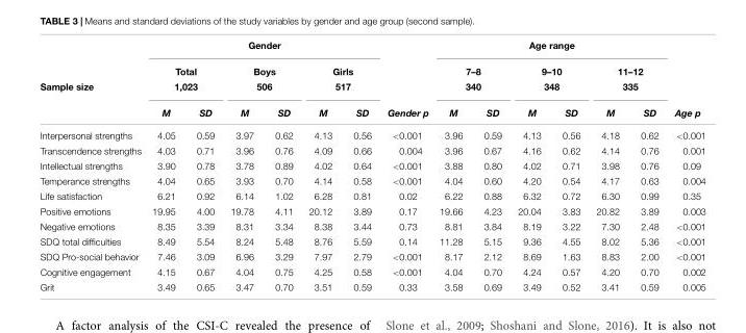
<table><thead><tr><td rowspan="4">Sample size</td><td colspan="6">Gender</td><td rowspan="4">Gender p</td><td colspan="6">Age range</td><td rowspan="4">Age p</td></tr><tr><td rowspan="2" colspan="2">Total 1,023</td><td rowspan="2" colspan="2">Boys 506</td><td rowspan="2" colspan="2">Girls 517</td><td rowspan="2" colspan="2">7–8 340</td><td rowspan="2" colspan="2">9–10 348</td><td rowspan="2" colspan="2">11–12 335</td></tr><tr></tr><tr><td>M</td><td>SD</td><td>M</td><td>SD</td><td>M</td><td>SD</td><td>M</td><td>SD</td><td>M</td><td>SD</td><td>M</td><td>SD</td></tr></thead><tbody><tr><td>Interpersonal strengths</td><td>4.05</td><td>0.59</td><td>3.97</td><td>0.62</td><td>4.13</td><td>0.56</td><td>&lt;0.001</td><td>3.96</td><td>0.59</td><td>4.13</td><td>0.56</td><td>4.18</td><td>0.62</td><td>&lt;0.001</td></tr><tr><td>Transcendence strengths</td><td>4.03</td><td>0.71</td><td>3.96</td><td>0.76</td><td>4.09</td><td>0.66</td><td>0.004</td><td>3.96</td><td>0.67</td><td>4.16</td><td>0.62</td><td>4.14</td><td>0.76</td><td>0.001</td></tr><tr><td>Intellectual strengths</td><td>3.90</td><td>0.78</td><td>3.78</td><td>0.89</td><td>4.02</td><td>0.64</td><td>&lt;0.001</td><td>3.88</td><td>0.80</td><td>4.02</td><td>0.71</td><td>3.98</td><td>0.76</td><td>0.09</td></tr><tr><td>Temperance strengths</td><td>4.04</td><td>0.65</td><td>3.93</td><td>0.70</td><td>4.14</td><td>0.58</td><td>&lt;0.001</td><td>4.04</td><td>0.60</td><td>4.20</td><td>0.54</td><td>4.17</td><td>0.63</td><td>0.004</td></tr><tr><td>Life satisfaction</td><td>6.21</td><td>0.92</td><td>6.14</td><td>1.02</td><td>6.28</td><td>0.81</td><td>0.02</td><td>6.22</td><td>0.88</td><td>6.32</td><td>0.72</td><td>6.30</td><td>0.99</td><td>0.35</td></tr><tr><td>Positive emotions</td><td>19.95</td><td>4.00</td><td>19.78</td><td>4.11</td><td>20.12</td><td>3.89</td><td>0.17</td><td>19.66</td><td>4.23</td><td>20.04</td><td>3.83</td><td>20.82</td><td>3.89</td><td>0.003</td></tr><tr><td>Negative emotions</td><td>8.35</td><td>3.39</td><td>8.31</td><td>3.34</td><td>8.38</td><td>3.44</td><td>0.73</td><td>8.81</td><td>3.84</td><td>8.19</td><td>3.22</td><td>7.30</td><td>2.48</td><td>&lt;0.001</td></tr><tr><td>SDQ total difficulties</td><td>8.49</td><td>5.54</td><td>8.24</td><td>5.48</td><td>8.76</td><td>5.59</td><td>0.14</td><td>11.28</td><td>5.15</td><td>9.36</td><td>4.55</td><td>8.02</td><td>5.36</td><td>&lt;0.001</td></tr><tr><td>SDQ Pro-social behavior</td><td>7.46</td><td>3.09</td><td>6.96</td><td>3.29</td><td>7.97</td><td>2.79</td><td>&lt;0.001</td><td>8.17</td><td>2.12</td><td>8.69</td><td>1.63</td><td>8.83</td><td>2.00</td><td>&lt;0.001</td></tr><tr><td>Cognitive engagement</td><td>4.15</td><td>0.67</td><td>4.04</td><td>0.75</td><td>4.25</td><td>0.58</td><td>&lt;0.001</td><td>4.04</td><td>0.70</td><td>4.24</td><td>0.57</td><td>4.20</td><td>0.70</td><td>0.002</td></tr><tr><td>Grit</td><td>3.49</td><td>0.65</td><td>3.47</td><td>0.70</td><td>3.51</td><td>0.59</td><td>0.33</td><td>3.58</td><td>0.69</td><td>3.49</td><td>0.52</td><td>3.41</td><td>0.59</td><td>0.005</td></tr></tbody></table>